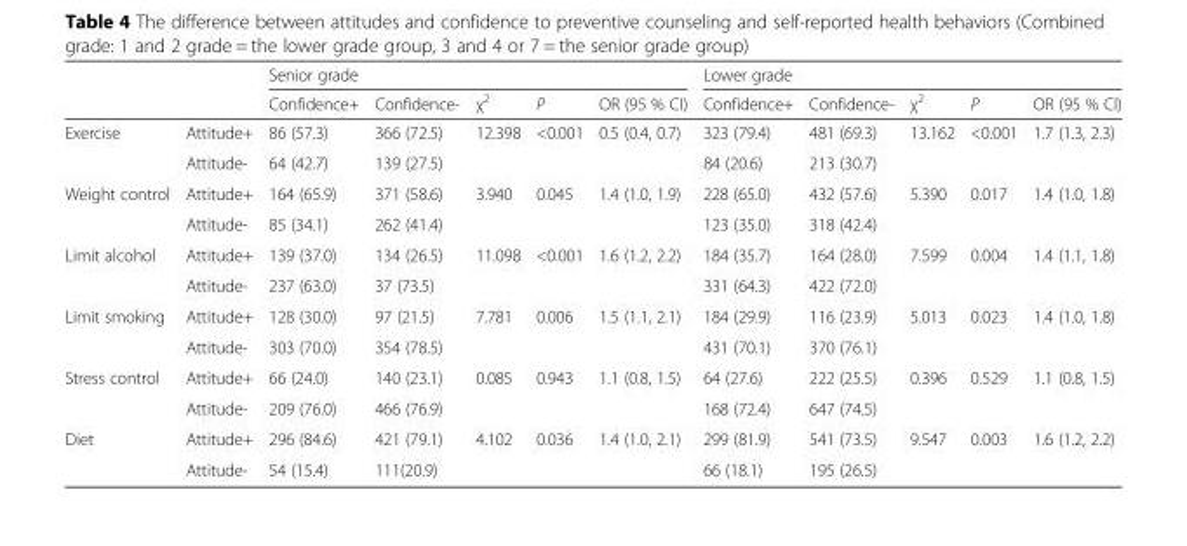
<table><thead><tr><td rowspan="2"></td><td rowspan="2"></td><td colspan="5">Senior grade</td><td colspan="5">Lower grade</td></tr><tr><td>Confidence+</td><td>Confidence-</td><td>χ<sup>2</sup></td><td>P</td><td>OR (95 % CI)</td><td>Confidence+</td><td>Confidence-</td><td>χ<sup>2</sup></td><td>P</td><td>OR (95 % CI)</td></tr></thead><tbody><tr><td rowspan="2">Exercise</td><td>Attitude+</td><td>86 (57.3)</td><td>366 (72.5)</td><td>12.398</td><td>&lt;0.001</td><td>0.5 (0.4, 0.7)</td><td>323 (79.4)</td><td>481 (69.3)</td><td>13.162</td><td>&lt;0.001</td><td>1.7 (1.3, 2.3)</td></tr><tr><td>Attitude-</td><td>64 (42.7)</td><td>139 (27.5)</td><td></td><td></td><td></td><td>84 (20.6)</td><td>213 (30.7)</td><td></td><td></td><td></td></tr><tr><td rowspan="2">Weight control</td><td>Attitude+</td><td>164 (65.9)</td><td>371 (58.6)</td><td>3.940</td><td>0.045</td><td>1.4 (1.0, 1.9)</td><td>228 (65.0)</td><td>432 (57.6)</td><td>5.390</td><td>0.017</td><td>1.4 (1.0, 1.8)</td></tr><tr><td>Attitude-</td><td>85 (34.1)</td><td>262 (41.4)</td><td></td><td></td><td></td><td>123 (35.0)</td><td>318 (42.4)</td><td></td><td></td><td></td></tr><tr><td rowspan="2">Limit alcohol</td><td>Attitude+</td><td>139 (37.0)</td><td>134 (26.5)</td><td>11.098</td><td>&lt;0.001</td><td>1.6 (1.2, 2.2)</td><td>184 (35.7)</td><td>164 (28.0)</td><td>7.599</td><td>0.004</td><td>1.4 (1.1, 1.8)</td></tr><tr><td>Attitude-</td><td>237 (63.0)</td><td>37 (73.5)</td><td></td><td></td><td></td><td>331 (64.3)</td><td>422 (72.0)</td><td></td><td></td><td></td></tr><tr><td rowspan="2">Limit smoking</td><td>Attitude+</td><td>128 (30.0)</td><td>97 (21.5)</td><td>7.781</td><td>0.006</td><td>1.5 (1.1, 2.1)</td><td>184 (29.9)</td><td>116 (23.9)</td><td>5.013</td><td>0.023</td><td>1.4 (1.0, 1.8)</td></tr><tr><td>Attitude-</td><td>303 (70.0)</td><td>354 (78.5)</td><td></td><td></td><td></td><td>431 (70.1)</td><td>370 (76.1)</td><td></td><td></td><td></td></tr><tr><td rowspan="2">Stress control</td><td>Attitude+</td><td>66 (24.0)</td><td>140 (23.1)</td><td>0.085</td><td>0.943</td><td>1.1 (0.8, 1.5)</td><td>64 (27.6)</td><td>222 (25.5)</td><td>0.396</td><td>0.529</td><td>1.1 (0.8, 1.5)</td></tr><tr><td>Attitude-</td><td>209 (76.0)</td><td>466 (76.9)</td><td></td><td></td><td></td><td>168 (72.4)</td><td>647 (74.5)</td><td></td><td></td><td></td></tr><tr><td rowspan="2">Diet</td><td>Attitude+</td><td>296 (84.6)</td><td>421 (79.1)</td><td>4.102</td><td>0.036</td><td>1.4 (1.0, 2.1)</td><td>299 (81.9)</td><td>541 (73.5)</td><td>9.547</td><td>0.003</td><td>1.6 (1.2, 2.2)</td></tr><tr><td>Attitude-</td><td>54 (15.4)</td><td>111(20.9)</td><td></td><td></td><td></td><td>66 (18.1)</td><td>195 (26.5)</td><td></td><td></td><td></td></tr></tbody></table>